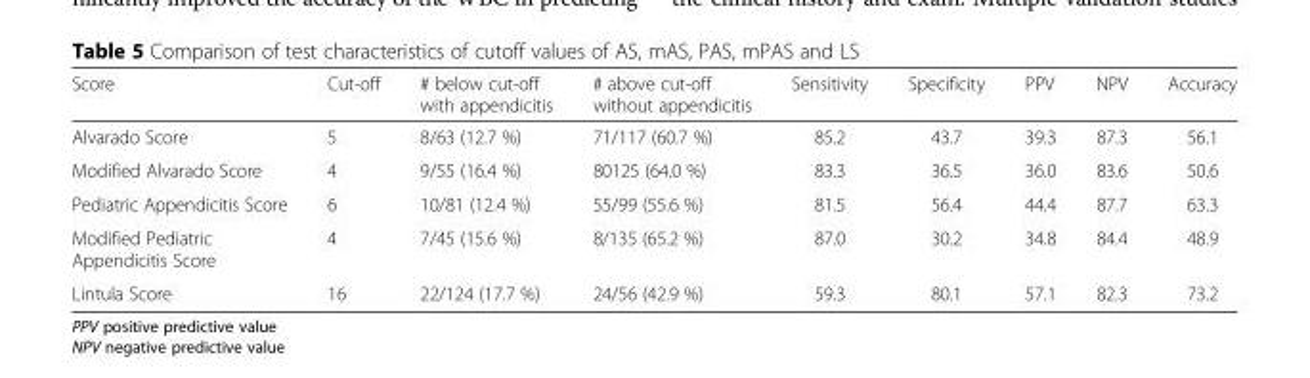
<table><thead><tr><td>Score</td><td>Cut-off</td><td># below cut-off with appendicitis</td><td># above cut-off without appendicitis</td><td>Sensitivity</td><td>Specificity</td><td>PPV</td><td>NPV</td><td>Accuracy</td></tr></thead><tbody><tr><td>Alvarado Score</td><td>5</td><td>8/63 (12.7 %)</td><td>71/117 (60.7 %)</td><td>85.2</td><td>43.7</td><td>39.3</td><td>87.3</td><td>56.1</td></tr><tr><td>Modified Alvarado Score</td><td>4</td><td>9/55 (16.4 %)</td><td>80125 (64.0 %)</td><td>83.3</td><td>36.5</td><td>36.0</td><td>83.6</td><td>50.6</td></tr><tr><td>Pediatric Appendicitis Score</td><td>6</td><td>10/81 (12.4 %)</td><td>55/99 (55.6 %)</td><td>81.5</td><td>56.4</td><td>44.4</td><td>87.7</td><td>63.3</td></tr><tr><td>Modified Pediatric Appendicitis Score</td><td>4</td><td>7/45 (15.6 %)</td><td>8/135 (65.2 %)</td><td>87.0</td><td>30.2</td><td>34.8</td><td>84.4</td><td>48.9</td></tr><tr><td>Lintula Score</td><td>16</td><td>22/124 (17.7 %)</td><td>24/56 (42.9 %)</td><td>59.3</td><td>80.1</td><td>57.1</td><td>82.3</td><td>73.2</td></tr></tbody></table>